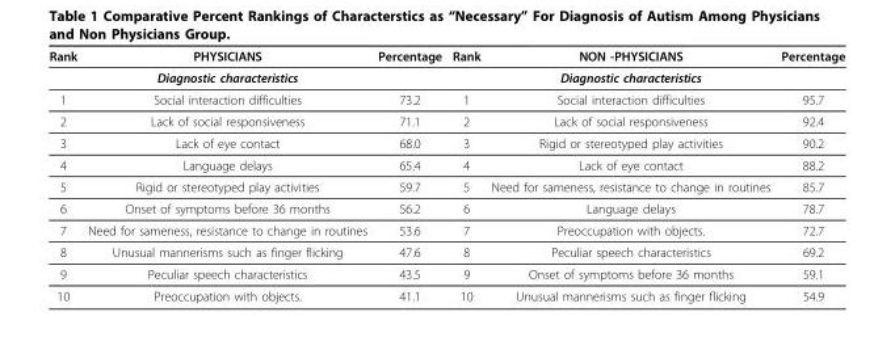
<table><thead><tr><td>Rank</td><td>PHYSICIANS</td><td>Percentage</td><td>Rank</td><td>NON -PHYSICIANS</td><td>Percentage</td></tr></thead><tbody><tr><td></td><td>Diagnostic characteristics</td><td></td><td></td><td>Diagnostic characteristics</td><td></td></tr><tr><td>1</td><td>Social interaction difficulties</td><td>73.2</td><td>1</td><td>Social interaction difficulties</td><td>95.7</td></tr><tr><td>2</td><td>Lack of social responsiveness</td><td>71.1</td><td>2</td><td>Lack of social responsiveness</td><td>92.4</td></tr><tr><td>3</td><td>Lack of eye contact</td><td>68.0</td><td>3</td><td>Rigid or stereotyped play activities</td><td>90.2</td></tr><tr><td>4</td><td>Language delays</td><td>65.4</td><td>4</td><td>Lack of eye contact</td><td>88.2</td></tr><tr><td>5</td><td>Rigid or stereotyped play activities</td><td>59.7</td><td>5</td><td>Need for sameness, resistance to change in routines</td><td>85.7</td></tr><tr><td>6</td><td>Onset of symptoms before 36 months</td><td>56.2</td><td>6</td><td>Language delays</td><td>78.7</td></tr><tr><td>7</td><td>Need for sameness, resistance to change in routines</td><td>53.6</td><td>7</td><td>Preoccupation with objects.</td><td>72.7</td></tr><tr><td>8</td><td>Unusual mannerisms such as finger flicking</td><td>47.6</td><td>8</td><td>Peculiar speech characteristics</td><td>69.2</td></tr><tr><td>9</td><td>Peculiar speech characteristics</td><td>43.5</td><td>9</td><td>Onset of symptoms before 36 months</td><td>59.1</td></tr><tr><td>10</td><td>Preoccupation with objects.</td><td>41.1</td><td>10</td><td>Unusual mannerisms such as finger flicking</td><td>54.9</td></tr></tbody></table>